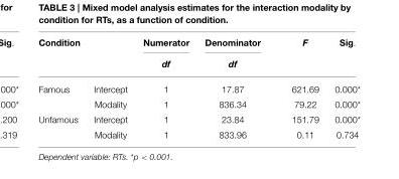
<table><thead><tr><td colspan="2">Condition</td><td rowspan="2">Numerator df</td><td rowspan="2">Denominator df</td><td rowspan="2">F</td><td rowspan="2">Sig.</td></tr><tr><td></td><td></td></tr></thead><tbody><tr><td rowspan="2">Famous</td><td>Intercept</td><td>1</td><td>17.87</td><td>621.69</td><td>0.000*</td></tr><tr><td>Modality</td><td>1</td><td>836.34</td><td>79.22</td><td>0.000*</td></tr><tr><td rowspan="2">Unfamous</td><td>Intercept</td><td>1</td><td>23.84</td><td>151.79</td><td>0.000*</td></tr><tr><td>Modality</td><td>1</td><td>833.96</td><td>0.11</td><td>0.734</td></tr></tbody></table>